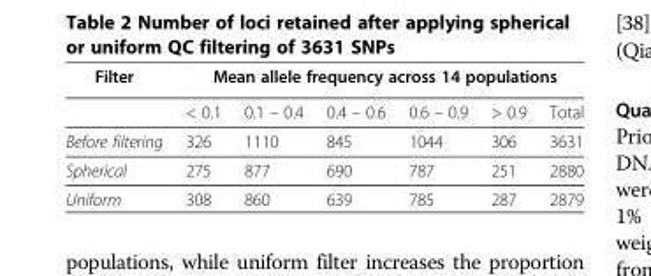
<table><thead><tr><td rowspan="2">Filter</td><td colspan="6">Mean allele frequency across 14 populations</td></tr><tr><td>&lt; 0.1</td><td>0.1 – 0.4</td><td>0.4 – 0.6</td><td>0.6 – 0.9</td><td>&gt; 0.9</td><td>Total</td></tr></thead><tbody><tr><td>Before filtering</td><td>326</td><td>1110</td><td>845</td><td>1044</td><td>306</td><td>3631</td></tr><tr><td>Spherical</td><td>275</td><td>877</td><td>690</td><td>787</td><td>251</td><td>2880</td></tr><tr><td>Uniform</td><td>308</td><td>860</td><td>639</td><td>785</td><td>287</td><td>2879</td></tr></tbody></table>